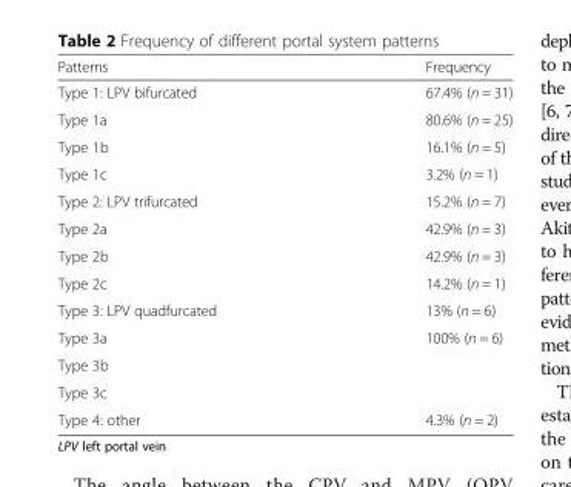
<table><thead><tr><td>Patterns</td><td>Frequency</td></tr></thead><tbody><tr><td>Type 1: LPV bifurcated</td><td>67.4% (n = 31)</td></tr><tr><td>Type 1a</td><td>80.6% (n = 25)</td></tr><tr><td>Type 1b</td><td>16.1% (n = 5)</td></tr><tr><td>Type 1c</td><td>3.2% (n = 1)</td></tr><tr><td>Type 2: LPV trifurcated</td><td>15.2% (n = 7)</td></tr><tr><td>Type 2a</td><td>42.9% (n = 3)</td></tr><tr><td>Type 2b</td><td>42.9% (n = 3)</td></tr><tr><td>Type 2c</td><td>14.2% (n = 1)</td></tr><tr><td>Type 3: LPV quadfurcated</td><td>13% (n = 6)</td></tr><tr><td>Type 3a</td><td>100% (n = 6)</td></tr><tr><td colspan="2">Type 3b</td></tr><tr><td colspan="2">Type 3c</td></tr><tr><td>Type 4: other</td><td>4.3% (n = 2)</td></tr></tbody></table>